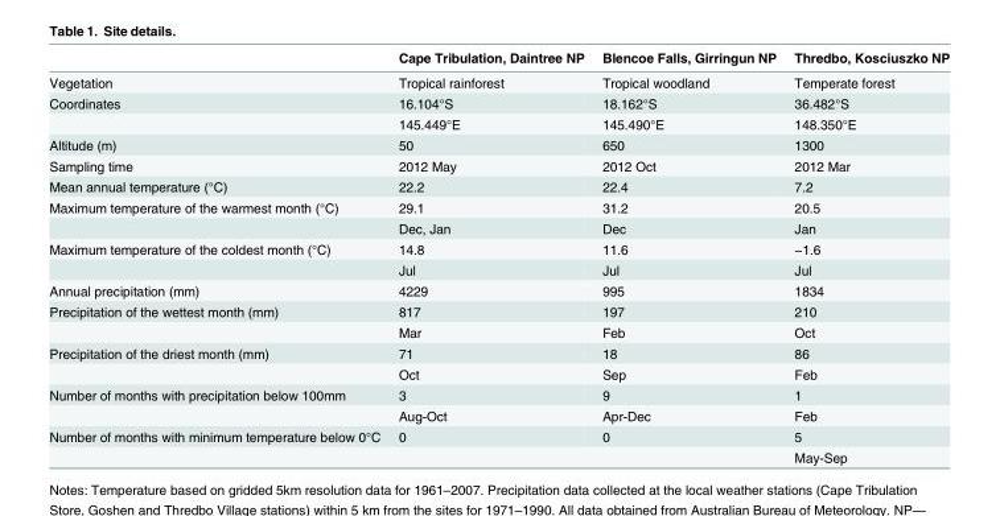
<table><thead><tr><td></td><td>Cape Tribulation, Daintree NP</td><td>Blencoe Falls, Girringun NP</td><td>Thredbo, Kosciuszko NP</td></tr></thead><tbody><tr><td>Vegetation</td><td>Tropical rainforest</td><td>Tropical woodland</td><td>Temperate forest</td></tr><tr><td rowspan="2">Coordinates</td><td>16.104°S</td><td>18.162°S</td><td>36.482°S</td></tr><tr><td>145.449°E</td><td>145.490°E</td><td>148.350°E</td></tr><tr><td>Altitude (m)</td><td>50</td><td>650</td><td>1300</td></tr><tr><td>Sampling time</td><td>2012 May</td><td>2012 Oct</td><td>2012 Mar</td></tr><tr><td>Mean annual temperature (°C)</td><td>22.2</td><td>22.4</td><td>7.2</td></tr><tr><td rowspan="2">Maximum temperature of the warmest month (°C)</td><td>29.1</td><td>31.2</td><td>20.5</td></tr><tr><td>Dec, Jan</td><td>Dec</td><td>Jan</td></tr><tr><td rowspan="2">Maximum temperature of the coldest month (°C)</td><td>14.8</td><td>11.6</td><td>−1.6</td></tr><tr><td>Jul</td><td>Jul</td><td>Jul</td></tr><tr><td>Annual precipitation (mm)</td><td>4229</td><td>995</td><td>1834</td></tr><tr><td rowspan="2">Precipitation of the wettest month (mm)</td><td>817</td><td>197</td><td>210</td></tr><tr><td>Mar</td><td>Feb</td><td>Oct</td></tr><tr><td rowspan="2">Precipitation of the driest month (mm)</td><td>71</td><td>18</td><td>86</td></tr><tr><td>Oct</td><td>Sep</td><td>Feb</td></tr><tr><td rowspan="2">Number of months with precipitation below 100mm</td><td>3</td><td>9</td><td>1</td></tr><tr><td>Aug-Oct</td><td>Apr-Dec</td><td>Feb</td></tr><tr><td rowspan="2">Number of months with minimum temperature below 0°C</td><td>0</td><td>0</td><td>5</td></tr><tr><td></td><td></td><td>May-Sep</td></tr></tbody></table>